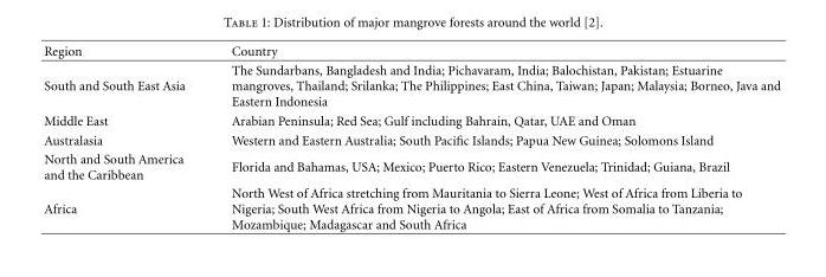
<table><thead><tr><td>Region</td><td>Country</td></tr></thead><tbody><tr><td>South and South East Asia</td><td>The Sundarbans, Bangladesh and India; Pichavaram, India; Balochistan, Pakistan; Estuarine mangroves, Thailand; Srilanka; The Philippines; East China, Taiwan; Japan; Malaysia; Borneo, Java and Eastern Indonesia</td></tr><tr><td>Middle East</td><td>Arabian Peninsula; Red Sea; Gulf including Bahrain, Qatar, UAE and Oman</td></tr><tr><td>Australasia</td><td>Western and Eastern Australia; South Pacific Islands; Papua New Guinea; Solomons Island</td></tr><tr><td>North and South America and the Caribbean</td><td>Florida and Bahamas, USA; Mexico; Puerto Rico; Eastern Venezuela; Trinidad; Guiana, Brazil</td></tr><tr><td>Africa</td><td>North West of Africa stretching from Mauritania to Sierra Leone; West of Africa from Liberia to Nigeria; South West Africa from Nigeria to Angola; East of Africa from Somalia to Tanzania; Mozambique; Madagascar and South Africa</td></tr></tbody></table>